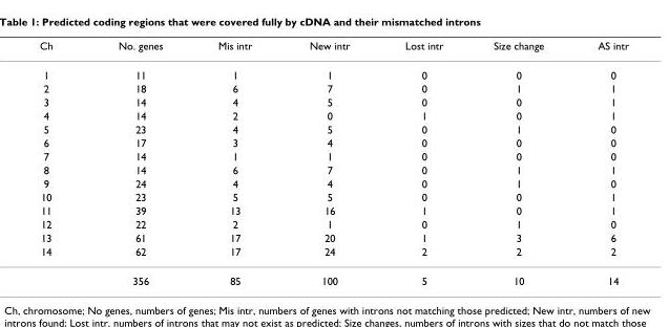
<table><thead><tr><td>Ch</td><td>No. genes</td><td>Mis intr</td><td>New intr</td><td>Lost intr</td><td>Size change</td><td>AS intr</td></tr></thead><tbody><tr><td>1</td><td>11</td><td>1</td><td>1</td><td>0</td><td>0</td><td>0</td></tr><tr><td>2</td><td>18</td><td>6</td><td>7</td><td>0</td><td>1</td><td>1</td></tr><tr><td>3</td><td>14</td><td>4</td><td>5</td><td>0</td><td>0</td><td>1</td></tr><tr><td>4</td><td>14</td><td>2</td><td>0</td><td>1</td><td>0</td><td>1</td></tr><tr><td>5</td><td>23</td><td>4</td><td>5</td><td>0</td><td>1</td><td>0</td></tr><tr><td>6</td><td>17</td><td>3</td><td>4</td><td>0</td><td>0</td><td>0</td></tr><tr><td>7</td><td>14</td><td>1</td><td>1</td><td>0</td><td>0</td><td>0</td></tr><tr><td>8</td><td>14</td><td>6</td><td>7</td><td>0</td><td>1</td><td>1</td></tr><tr><td>9</td><td>24</td><td>4</td><td>4</td><td>0</td><td>1</td><td>0</td></tr><tr><td>10</td><td>23</td><td>5</td><td>5</td><td>0</td><td>0</td><td>1</td></tr><tr><td>11</td><td>39</td><td>13</td><td>16</td><td>1</td><td>0</td><td>1</td></tr><tr><td>12</td><td>22</td><td>2</td><td>1</td><td>0</td><td>1</td><td>0</td></tr><tr><td>13</td><td>61</td><td>17</td><td>20</td><td>1</td><td>3</td><td>6</td></tr><tr><td rowspan="2">14</td><td>62</td><td>17</td><td>24</td><td>2</td><td>2</td><td>2</td></tr><tr><td>356</td><td>85</td><td>100</td><td>5</td><td>10</td><td>14</td></tr></tbody></table>